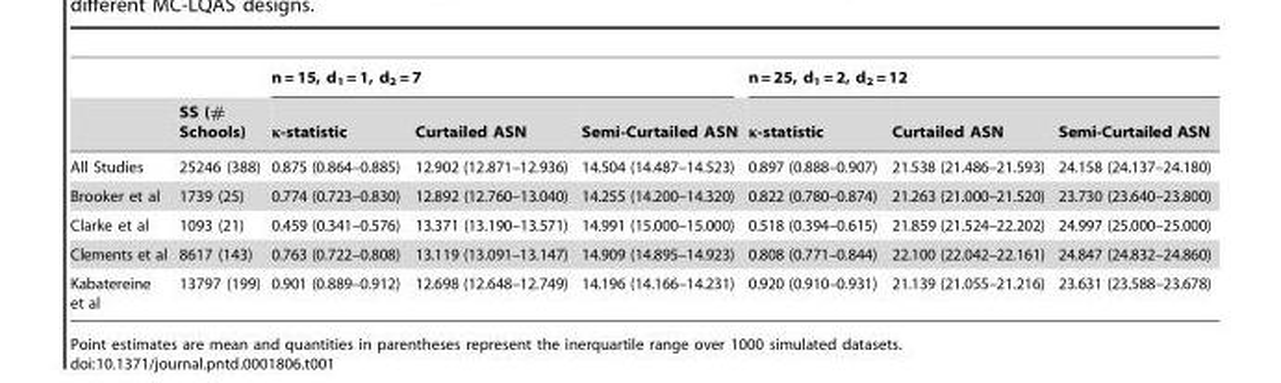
<table><thead><tr><td rowspan="2"></td><td rowspan="2">SS (# Schools)</td><td colspan="3">n = 15, d<sub>1</sub> = 1, d<sub>2</sub> = 7</td><td colspan="3">n = 25, d<sub>1</sub> = 2, d<sub>2</sub> = 12</td></tr><tr><td>κ-statistic</td><td>Curtailed ASN</td><td>Semi-Curtailed ASN</td><td>κ-statistic</td><td>Curtailed ASN</td><td>Semi-Curtailed ASN</td></tr></thead><tbody><tr><td>All Studies</td><td>25246 (388)</td><td>0.875 (0.864–0.885)</td><td>12.902 (12.871–12.936)</td><td>14.504 (14.487–14.523)</td><td>0.897 (0.888–0.907)</td><td>21.538 (21.486–21.593)</td><td>24.158 (24.137–24.180)</td></tr><tr><td>Brooker et al</td><td>1739 (25)</td><td>0.774 (0.723–0.830)</td><td>12.892 (12.760–13.040)</td><td>14.255 (14.200–14.320)</td><td>0.822 (0.780–0.874)</td><td>21.263 (21.000–21.520)</td><td>23.730 (23.640–23.800)</td></tr><tr><td>Clarke et al</td><td>1093 (21)</td><td>0.459 (0.341–0.576)</td><td>13.371 (13.190–13.571)</td><td>14.991 (15.000–15.000)</td><td>0.518 (0.394–0.615)</td><td>21.859 (21.524–22.202)</td><td>24.997 (25.000–25.000)</td></tr><tr><td>Clements et al</td><td>8617 (143)</td><td>0.763 (0.722–0.808)</td><td>13.119 (13.091–13.147)</td><td>14.909 (14.895–14.923)</td><td>0.808 (0.771–0.844)</td><td>22.100 (22.042–22.161)</td><td>24.847 (24.832–24.860)</td></tr><tr><td>Kabatereine et al</td><td>13797 (199)</td><td>0.901 (0.889–0.912)</td><td>12.698 (12.648–12.749)</td><td>14.196 (14.166–14.231)</td><td>0.920 (0.910–0.931)</td><td>21.139 (21.055–21.216)</td><td>23.631 (23.588–23.678)</td></tr></tbody></table>